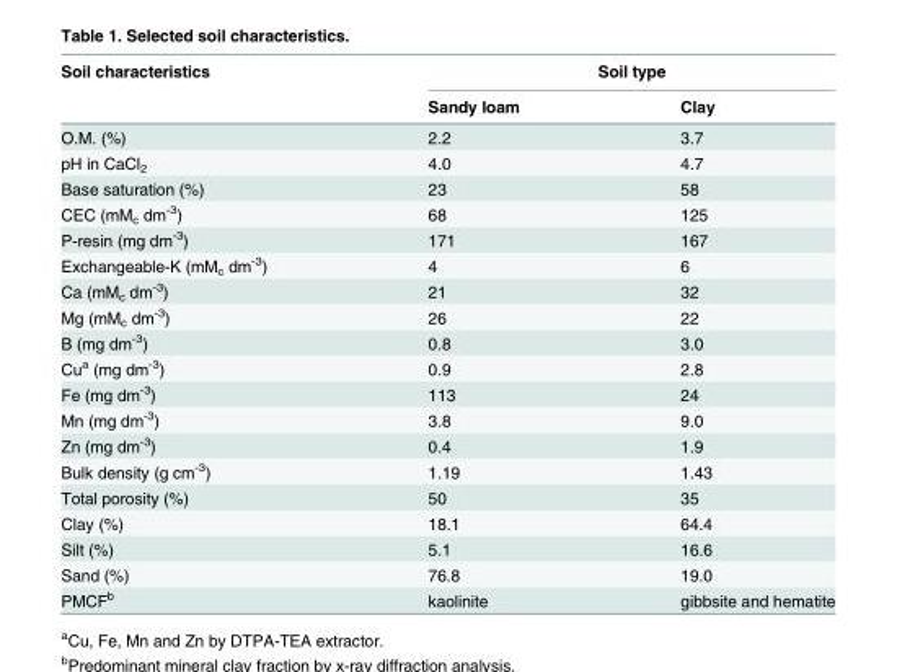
<table><thead><tr><td rowspan="2">Soil characteristics</td><td colspan="2">Soil type</td></tr><tr><td>Sandy loam</td><td>Clay</td></tr></thead><tbody><tr><td>O.M. (%)</td><td>2.2</td><td>3.7</td></tr><tr><td>pH in CaCl<sub>2</sub></td><td>4.0</td><td>4.7</td></tr><tr><td>Base saturation (%)</td><td>23</td><td>58</td></tr><tr><td>CEC (mM<sub>c</sub> dm<sup>-3</sup>)</td><td>68</td><td>125</td></tr><tr><td>P-resin (mg dm<sup>-3</sup>)</td><td>171</td><td>167</td></tr><tr><td>Exchangeable-K (mM<sub>c</sub> dm<sup>-3</sup>)</td><td>4</td><td>6</td></tr><tr><td>Ca (mM<sub>c</sub> dm<sup>-3</sup>)</td><td>21</td><td>32</td></tr><tr><td>Mg (mM<sub>c</sub> dm<sup>-3</sup>)</td><td>26</td><td>22</td></tr><tr><td>B (mg dm<sup>-3</sup>)</td><td>0.8</td><td>3.0</td></tr><tr><td>Cu<sup>a</sup> (mg dm<sup>-3</sup>)</td><td>0.9</td><td>2.8</td></tr><tr><td>Fe (mg dm<sup>-3</sup>)</td><td>113</td><td>24</td></tr><tr><td>Mn (mg dm<sup>-3</sup>)</td><td>3.8</td><td>9.0</td></tr><tr><td>Zn (mg dm<sup>-3</sup>)</td><td>0.4</td><td>1.9</td></tr><tr><td>Bulk density (g cm<sup>-3</sup>)</td><td>1.19</td><td>1.43</td></tr><tr><td>Total porosity (%)</td><td>50</td><td>35</td></tr><tr><td>Clay (%)</td><td>18.1</td><td>64.4</td></tr><tr><td>Silt (%)</td><td>5.1</td><td>16.6</td></tr><tr><td>Sand (%)</td><td>76.8</td><td>19.0</td></tr><tr><td>PMCF<sup>b</sup></td><td>kaolinite</td><td>gibbsite and hematite</td></tr></tbody></table>